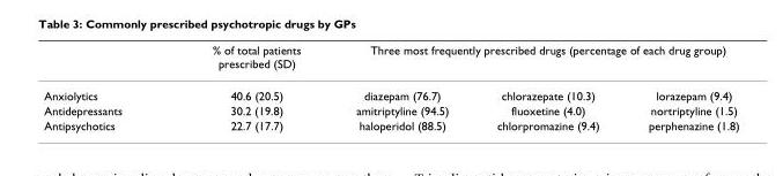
<table><thead><tr><td rowspan="2">Anxiolytics</td><td rowspan="2">% of total patients prescribed (SD) 40.6 (20.5)</td><td colspan="3">Three most frequently prescribed drugs (percentage of each drug group)</td></tr><tr><td>diazepam (76.7)</td><td>chlorazepate (10.3)</td><td>lorazepam (9.4)</td></tr></thead><tbody><tr><td>Antidepressants</td><td>30.2 (19.8)</td><td>amitriptyline (94.5)</td><td>fluoxetine (4.0)</td><td>nortriptyline (1.5)</td></tr><tr><td>Antipsychotics</td><td>22.7 (17.7)</td><td>haloperidol (88.5)</td><td>chlorpromazine (9.4)</td><td>perphenazine (1.8)</td></tr></tbody></table>